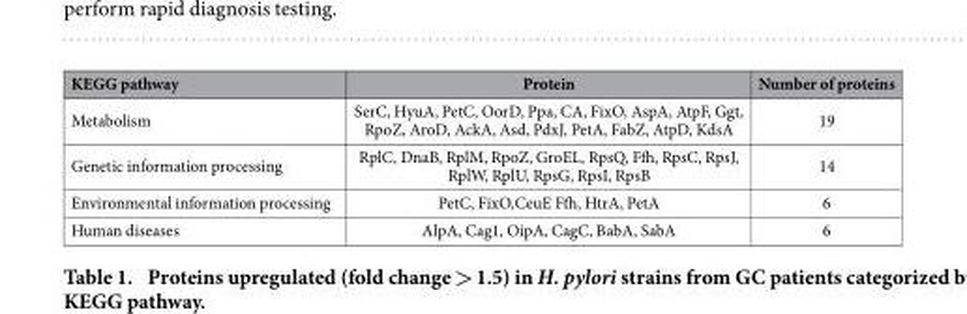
<table><thead><tr><td>KEGG pathway</td><td>Protein</td><td>Number of proteins</td></tr></thead><tbody><tr><td>Metabolism</td><td>SerC, HyuA, PetC, OorD, Ppa, CA, FixO, AspA, AtpF, Ggt, RpoZ, AroD, AckA, Asd, PdxJ, PetA, FabZ, AtpD, KdsA</td><td>19</td></tr><tr><td>Genetic information processing</td><td>RplC, DnaB, RplM, RpoZ, GroEL, RpsQ, Ffh, RpsC, RpsJ, RplW, RplU, RpsG, RpsI, RpsB</td><td>14</td></tr><tr><td>Environmental information processing</td><td>PetC, FixO,CeuE Ffh, HtrA, PetA</td><td>6</td></tr><tr><td>Human diseases</td><td>AlpA, Cag1, OipA, CagC, BabA, SabA</td><td>6</td></tr></tbody></table>